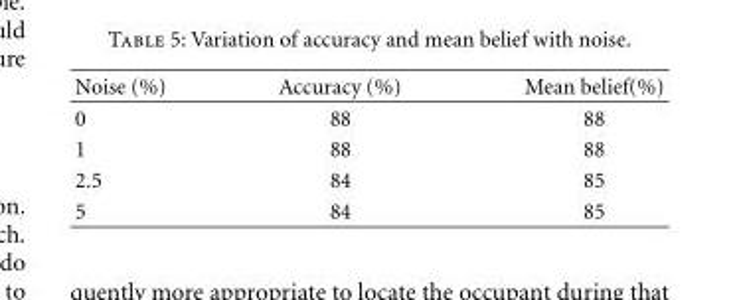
<table><thead><tr><td>Noise (%)</td><td>Accuracy (%)</td><td>Mean belief(%)</td></tr></thead><tbody><tr><td>0</td><td>88</td><td>88</td></tr><tr><td>1</td><td>88</td><td>88</td></tr><tr><td>2.5</td><td>84</td><td>85</td></tr><tr><td>5</td><td>84</td><td>85</td></tr></tbody></table>